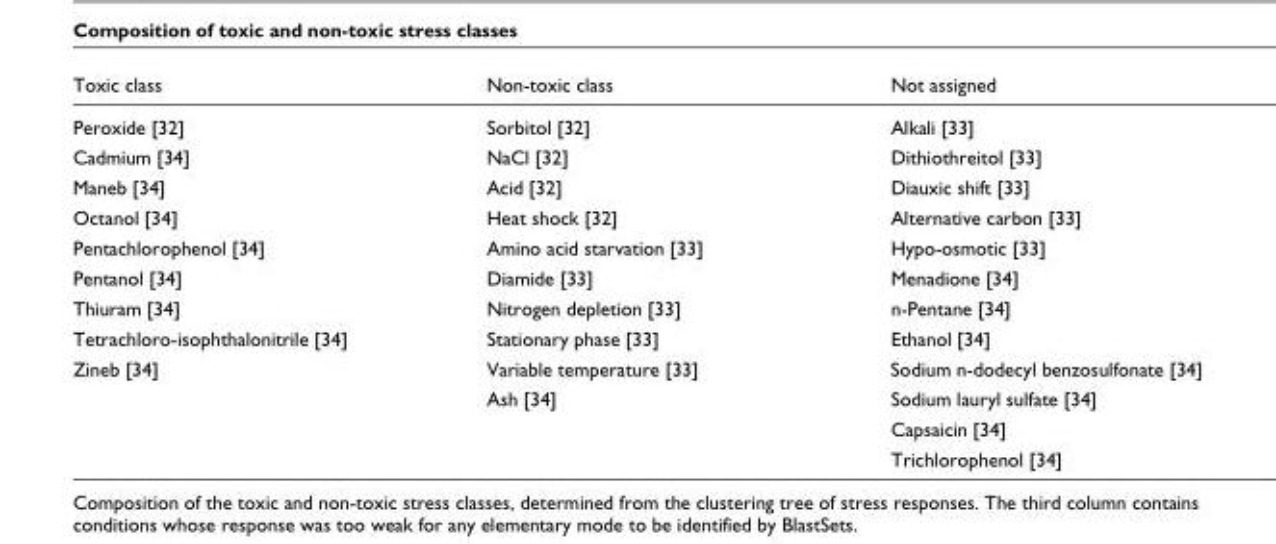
<table><thead><tr><td>Toxic class</td><td>Non-toxic class</td><td>Not assigned</td></tr></thead><tbody><tr><td>Peroxide [32]</td><td>Sorbitol [32]</td><td>Alkali [33]</td></tr><tr><td>Cadmium [34]</td><td>NaCl [32]</td><td>Dithiothreitol [33]</td></tr><tr><td>Maneb [34]</td><td>Acid [32]</td><td>Diauxic shift [33]</td></tr><tr><td>Octanol [34]</td><td>Heat shock [32]</td><td>Alternative carbon [33]</td></tr><tr><td>Pentachlorophenol [34]</td><td>Amino acid starvation [33]</td><td>Hypo-osmotic [33]</td></tr><tr><td>Pentanol [34]</td><td>Diamide [33]</td><td>Menadione [34]</td></tr><tr><td>Thiuram [34]</td><td>Nitrogen depletion [33]</td><td>n-Pentane [34]</td></tr><tr><td>Tetrachloro-isophthalonitrile [34]</td><td>Stationary phase [33]</td><td>Ethanol [34]</td></tr><tr><td rowspan="4">Zineb [34]</td><td>Variable temperature [33]</td><td>Sodium n-dodecyl benzosulfonate [34]</td></tr><tr><td>Ash [34]</td><td>Sodium lauryl sulfate [34]</td></tr><tr><td></td><td>Capsaicin [34]</td></tr><tr><td></td><td>Trichlorophenol [34]</td></tr></tbody></table>